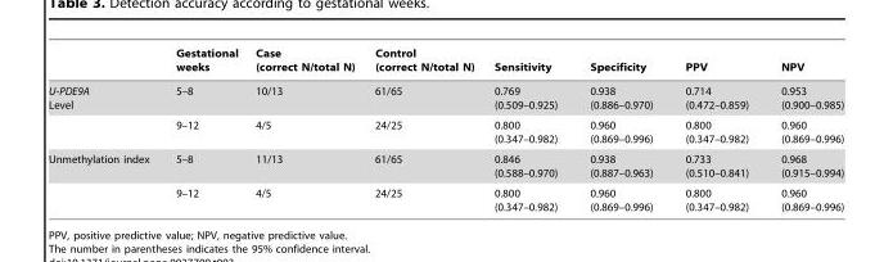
<table><thead><tr><td></td><td>Gestational weeks</td><td>Case (correct N/total N)</td><td>Control (correct N/total N)</td><td>Sensitivity</td><td>Specificity</td><td>PPV</td><td>NPV</td></tr></thead><tbody><tr><td rowspan="2">U-PDE9A Level</td><td>5–8</td><td>10/13</td><td>61/65</td><td>0.769 (0.509–0.925)</td><td>0.938 (0.886–0.970)</td><td>0.714 (0.472–0.859)</td><td>0.953 (0.900–0.985)</td></tr><tr><td>9–12</td><td>4/5</td><td>24/25</td><td>0.800 (0.347–0.982)</td><td>0.960 (0.869–0.996)</td><td>0.800 (0.347–0.982)</td><td>0.960 (0.869–0.996)</td></tr><tr><td rowspan="2">Unmethylation index</td><td>5–8</td><td>11/13</td><td>61/65</td><td>0.846 (0.588–0.970)</td><td>0.938 (0.887–0.963)</td><td>0.733 (0.510–0.841)</td><td>0.968 (0.915–0.994)</td></tr><tr><td>9–12</td><td>4/5</td><td>24/25</td><td>0.800 (0.347–0.982)</td><td>0.960 (0.869–0.996)</td><td>0.800 (0.347–0.982)</td><td>0.960 (0.869–0.996)</td></tr></tbody></table>